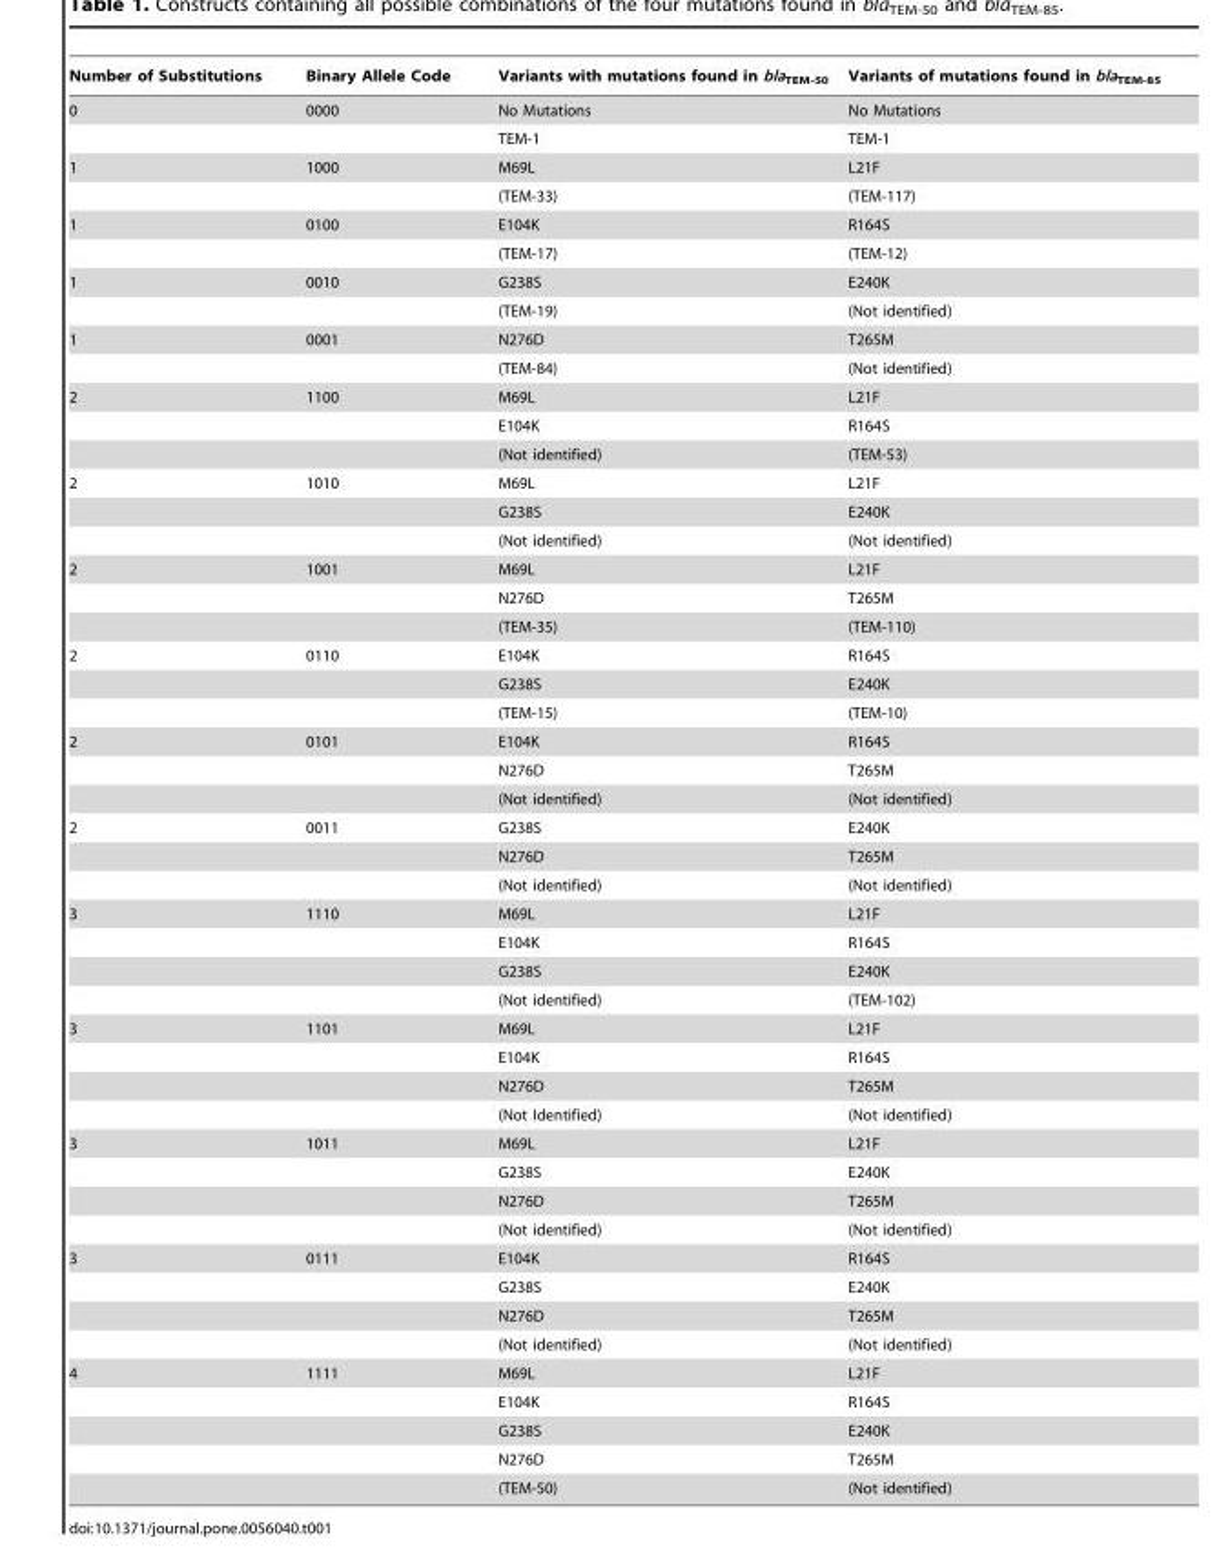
<table><thead><tr><td>Number of Substitutions</td><td>Binary Allele Code</td><td>Variants with mutations found in bla<sub>TEM-50</sub></td><td>Variants of mutations found in bla<sub>TEM-85</sub></td></tr></thead><tbody><tr><td rowspan="2">0</td><td>0000</td><td>No Mutations</td><td>No Mutations</td></tr><tr><td></td><td>TEM-1</td><td>TEM-1</td></tr><tr><td rowspan="2">1</td><td>1000</td><td>M69L</td><td>L21F</td></tr><tr><td></td><td>(TEM-33)</td><td>(TEM-117)</td></tr><tr><td rowspan="2">1</td><td>0100</td><td>E104K</td><td>R164S</td></tr><tr><td></td><td>(TEM-17)</td><td>(TEM-12)</td></tr><tr><td rowspan="2">1</td><td>0010</td><td>G238S</td><td>E240K</td></tr><tr><td></td><td>(TEM-19)</td><td>(Not identified)</td></tr><tr><td rowspan="2">1</td><td>0001</td><td>N276D</td><td>T265M</td></tr><tr><td></td><td>(TEM-84)</td><td>(Not identified)</td></tr><tr><td rowspan="3">2</td><td>1100</td><td>M69L</td><td>L21F</td></tr><tr><td></td><td>E104K</td><td>R164S</td></tr><tr><td></td><td>(Not identified)</td><td>(TEM-53)</td></tr><tr><td rowspan="3">2</td><td>1010</td><td>M69L</td><td>L21F</td></tr><tr><td></td><td>G238S</td><td>E240K</td></tr><tr><td></td><td>(Not identified)</td><td>(Not identified)</td></tr><tr><td rowspan="3">2</td><td>1001</td><td>M69L</td><td>L21F</td></tr><tr><td></td><td>N276D</td><td>T265M</td></tr><tr><td></td><td>(TEM-35)</td><td>(TEM-110)</td></tr><tr><td rowspan="3">2</td><td>0110</td><td>E104K</td><td>R164S</td></tr><tr><td></td><td>G238S</td><td>E240K</td></tr><tr><td></td><td>(TEM-15)</td><td>(TEM-10)</td></tr><tr><td rowspan="3">2</td><td>0101</td><td>E104K</td><td>R164S</td></tr><tr><td></td><td>N276D</td><td>T265M</td></tr><tr><td></td><td>(Not identified)</td><td>(Not identified)</td></tr><tr><td rowspan="3">2</td><td>0011</td><td>G238S</td><td>E240K</td></tr><tr><td></td><td>N276D</td><td>T265M</td></tr><tr><td></td><td>(Not identified)</td><td>(Not identified)</td></tr><tr><td rowspan="4">3</td><td>1110</td><td>M69L</td><td>L21F</td></tr><tr><td></td><td>E104K</td><td>R164S</td></tr><tr><td></td><td>G238S</td><td>E240K</td></tr><tr><td></td><td>(Not identified)</td><td>(TEM-102)</td></tr><tr><td rowspan="4">3</td><td>1101</td><td>M69L</td><td>L21F</td></tr><tr><td></td><td>E104K</td><td>R164S</td></tr><tr><td></td><td>N276D</td><td>T265M</td></tr><tr><td></td><td>(Not Identified)</td><td>(Not identified)</td></tr><tr><td rowspan="4">3</td><td>1011</td><td>M69L</td><td>L21F</td></tr><tr><td></td><td>G238S</td><td>E240K</td></tr><tr><td></td><td>N276D</td><td>T265M</td></tr><tr><td></td><td>(Not identified)</td><td>(Not identified)</td></tr><tr><td rowspan="4">3</td><td>0111</td><td>E104K</td><td>R164S</td></tr><tr><td></td><td>G238S</td><td>E240K</td></tr><tr><td></td><td>N276D</td><td>T265M</td></tr><tr><td></td><td>(Not identified)</td><td>(Not identified)</td></tr><tr><td rowspan="5">4</td><td>1111</td><td>M69L</td><td>L21F</td></tr><tr><td></td><td>E104K</td><td>R164S</td></tr><tr><td></td><td>G238S</td><td>E240K</td></tr><tr><td></td><td>N276D</td><td>T265M</td></tr><tr><td></td><td>(TEM-50)</td><td>(Not identified)</td></tr></tbody></table>